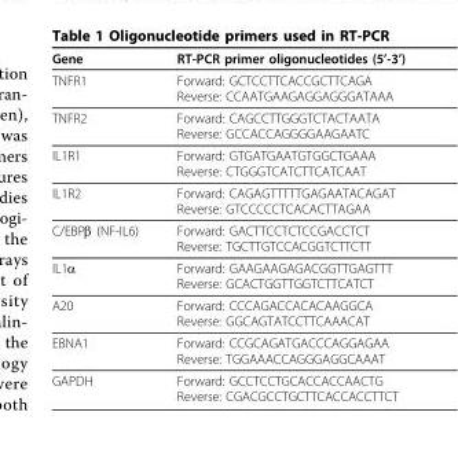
<table><thead><tr><td>Gene</td><td>RT-PCR primer oligonucleotides (5’-3’)</td></tr></thead><tbody><tr><td>TNFR1</td><td>Forward: GCTCCTTCACCGCTTCAGA Reverse: CCAATGAAGAGGAGGGATAAA</td></tr><tr><td>TNFR2</td><td>Forward: CAGCCTTGGGTCTACTAATA Reverse: GCCACCAGGGGAAGAATC</td></tr><tr><td>IL1R1</td><td>Forward: GTGATGAATGTGGCTGAAA Reverse: CTGGGTCATCTTCATCAAT</td></tr><tr><td>IL1R2</td><td>Forward: CAGAGTTTTTGAGAATACAGAT Reverse: GTCCCCCTCACACTTAGAA</td></tr><tr><td>C/EBPβ (NF-IL6)</td><td>Forward: GACTTCCTCTCCGACCTCT Reverse: TGCTTGTCCACGGTCTTCTT</td></tr><tr><td>IL1α</td><td>Forward: GAAGAAGAGACGGTTGAGTTT Reverse: GCACTGGTTGGTCTTCATCT</td></tr><tr><td>A20</td><td>Forward: CCCAGACCACACAAGGCA Reverse: GGCAGTATCCTTCAAACAT</td></tr><tr><td>EBNA1</td><td>Forward: CCGCAGATGACCCAGGAGAA Reverse: TGGAAACCAGGGAGGCAAAT</td></tr><tr><td>GAPDH</td><td>Forward: GCCTCCTGCACCACCAACTG Reverse: CGACGCCTGCTTCACCACCTTCT</td></tr></tbody></table>